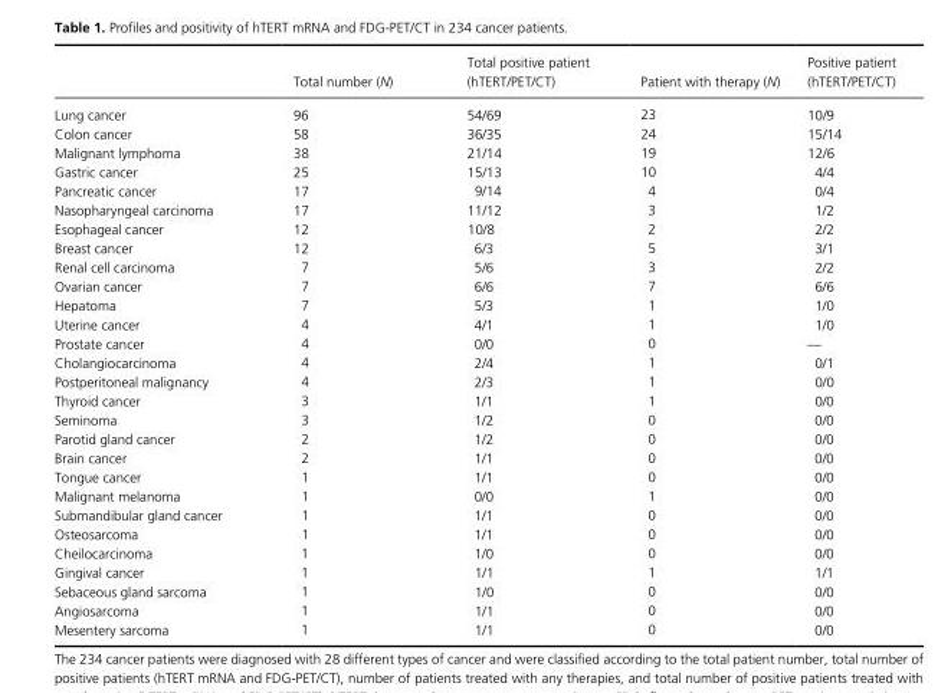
<table><thead><tr><td></td><td>Total number (N)</td><td>Total positive patient (hTERT/PET/CT)</td><td>Patient with therapy (N)</td><td>Positive patient (hTERT/PET/CT)</td></tr></thead><tbody><tr><td>Lung cancer</td><td>96</td><td>54/69</td><td>23</td><td>10/9</td></tr><tr><td>Colon cancer</td><td>58</td><td>36/35</td><td>24</td><td>15/14</td></tr><tr><td>Malignant lymphoma</td><td>38</td><td>21/14</td><td>19</td><td>12/6</td></tr><tr><td>Gastric cancer</td><td>25</td><td>15/13</td><td>10</td><td>4/4</td></tr><tr><td>Pancreatic cancer</td><td>17</td><td>9/14</td><td>4</td><td>0/4</td></tr><tr><td>Nasopharyngeal carcinoma</td><td>17</td><td>11/12</td><td>3</td><td>1/2</td></tr><tr><td>Esophageal cancer</td><td>12</td><td>10/8</td><td>2</td><td>2/2</td></tr><tr><td>Breast cancer</td><td>12</td><td>6/3</td><td>5</td><td>3/1</td></tr><tr><td>Renal cell carcinoma</td><td>7</td><td>5/6</td><td>3</td><td>2/2</td></tr><tr><td>Ovarian cancer</td><td>7</td><td>6/6</td><td>7</td><td>6/6</td></tr><tr><td>Hepatoma</td><td>7</td><td>5/3</td><td>1</td><td>1/0</td></tr><tr><td>Uterine cancer</td><td>4</td><td>4/1</td><td>1</td><td>1/0</td></tr><tr><td>Prostate cancer</td><td>4</td><td>0/0</td><td>0</td><td>—</td></tr><tr><td>Cholangiocarcinoma</td><td>4</td><td>2/4</td><td>1</td><td>0/1</td></tr><tr><td>Postperitoneal malignancy</td><td>4</td><td>2/3</td><td>1</td><td>0/0</td></tr><tr><td>Thyroid cancer</td><td>3</td><td>1/1</td><td>1</td><td>0/0</td></tr><tr><td>Seminoma</td><td>3</td><td>1/2</td><td>0</td><td>0/0</td></tr><tr><td>Parotid gland cancer</td><td>2</td><td>1/2</td><td>0</td><td>0/0</td></tr><tr><td>Brain cancer</td><td>2</td><td>1/1</td><td>0</td><td>0/0</td></tr><tr><td>Tongue cancer</td><td>1</td><td>1/1</td><td>0</td><td>0/0</td></tr><tr><td>Malignant melanoma</td><td>1</td><td>0/0</td><td>1</td><td>0/0</td></tr><tr><td>Submandibular gland cancer</td><td>1</td><td>1/1</td><td>0</td><td>0/0</td></tr><tr><td>Osteosarcoma</td><td>1</td><td>1/1</td><td>0</td><td>0/0</td></tr><tr><td>Cheilocarcinoma</td><td>1</td><td>1/0</td><td>0</td><td>0/0</td></tr><tr><td>Gingival cancer</td><td>1</td><td>1/1</td><td>1</td><td>1/1</td></tr><tr><td>Sebaceous gland sarcoma</td><td>1</td><td>1/0</td><td>0</td><td>0/0</td></tr><tr><td>Angiosarcoma</td><td>1</td><td>1/1</td><td>0</td><td>0/0</td></tr><tr><td>Mesentery sarcoma</td><td>1</td><td>1/1</td><td>0</td><td>0/0</td></tr></tbody></table>